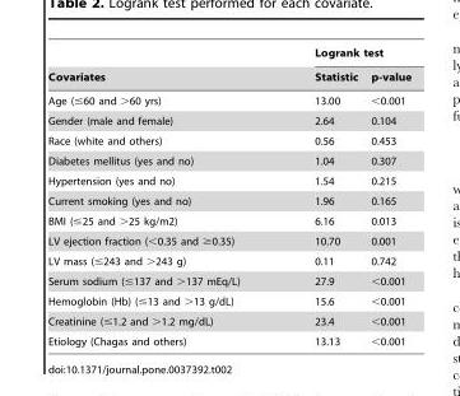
<table><thead><tr><td rowspan="2">Covariates</td><td colspan="2">Logrank test</td></tr><tr><td>Statistic</td><td>p-value</td></tr></thead><tbody><tr><td>Age (≤60 and &gt;60 yrs)</td><td>13.00</td><td>&lt;0.001</td></tr><tr><td>Gender (male and female)</td><td>2.64</td><td>0.104</td></tr><tr><td>Race (white and others)</td><td>0.56</td><td>0.453</td></tr><tr><td>Diabetes mellitus (yes and no)</td><td>1.04</td><td>0.307</td></tr><tr><td>Hypertension (yes and no)</td><td>1.54</td><td>0.215</td></tr><tr><td>Current smoking (yes and no)</td><td>1.96</td><td>0.165</td></tr><tr><td>BMI (≤25 and &gt;25 kg/m2)</td><td>6.16</td><td>0.013</td></tr><tr><td>LV ejection fraction (&lt;0.35 and ≥0.35)</td><td>10.70</td><td>0.001</td></tr><tr><td>LV mass (≤243 and &gt;243 g)</td><td>0.11</td><td>0.742</td></tr><tr><td>Serum sodium (≤137 and &gt;137 mEq/L)</td><td>27.9</td><td>&lt;0.001</td></tr><tr><td>Hemoglobin (Hb) (≤13 and &gt;13 g/dL)</td><td>15.6</td><td>&lt;0.001</td></tr><tr><td>Creatinine (≤1.2 and &gt;1.2 mg/dL)</td><td>23.4</td><td>&lt;0.001</td></tr><tr><td>Etiology (Chagas and others)</td><td>13.13</td><td>&lt;0.001</td></tr></tbody></table>